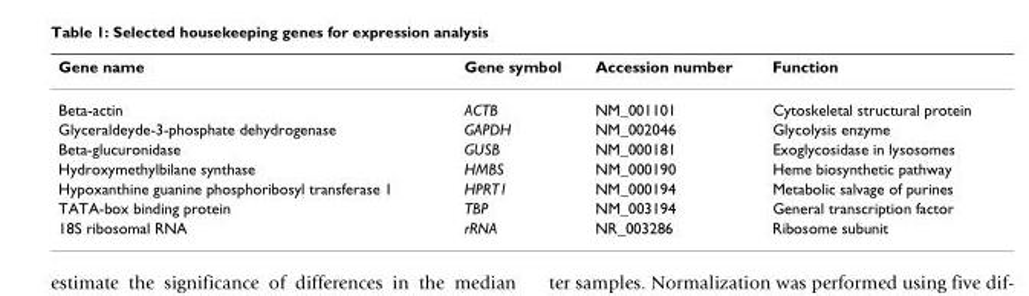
<table><thead><tr><td>Gene name</td><td>Gene symbol</td><td>Accession number</td><td>Function</td></tr></thead><tbody><tr><td>Beta-actin</td><td>ACTB</td><td>NM_001101</td><td>Cytoskeletal structural protein</td></tr><tr><td>Glyceraldeyde-3-phosphate dehydrogenase</td><td>GAPDH</td><td>NM_002046</td><td>Glycolysis enzyme</td></tr><tr><td>Beta-glucuronidase</td><td>GUSB</td><td>NM_000181</td><td>Exoglycosidase in lysosomes</td></tr><tr><td>Hydroxymethylbilane synthase</td><td>HMBS</td><td>NM_000190</td><td>Heme biosynthetic pathway</td></tr><tr><td>Hypoxanthine guanine phosphoribosyl transferase 1</td><td>HPRT1</td><td>NM_000194</td><td>Metabolic salvage of purines</td></tr><tr><td>TATA-box binding protein</td><td>TBP</td><td>NM_003194</td><td>General transcription factor</td></tr><tr><td>18S ribosomal RNA</td><td>rRNA</td><td>NR_003286</td><td>Ribosome subunit</td></tr></tbody></table>